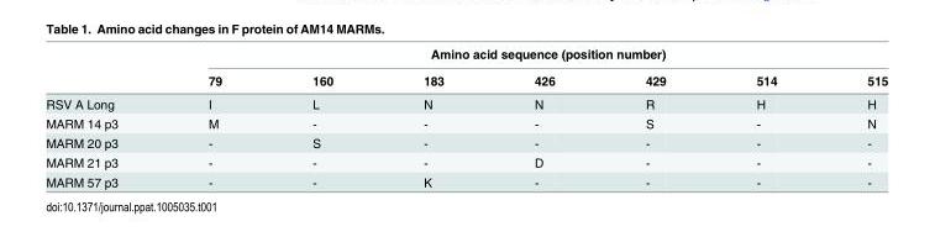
<table><thead><tr><td rowspan="2"></td><td colspan="7">Amino acid sequence (position number)</td></tr><tr><td>79</td><td>160</td><td>183</td><td>426</td><td>429</td><td>514</td><td>515</td></tr></thead><tbody><tr><td>RSV A Long</td><td>I</td><td>L</td><td>N</td><td>N</td><td>R</td><td>H</td><td>H</td></tr><tr><td>MARM 14 p3</td><td>M</td><td>-</td><td>-</td><td>-</td><td>S</td><td>-</td><td>N</td></tr><tr><td>MARM 20 p3</td><td>-</td><td>S</td><td>-</td><td>-</td><td>-</td><td>-</td><td>-</td></tr><tr><td>MARM 21 p3</td><td>-</td><td>-</td><td>-</td><td>D</td><td>-</td><td>-</td><td>-</td></tr><tr><td>MARM 57 p3</td><td>-</td><td>-</td><td>K</td><td>-</td><td>-</td><td>-</td><td>-</td></tr></tbody></table>